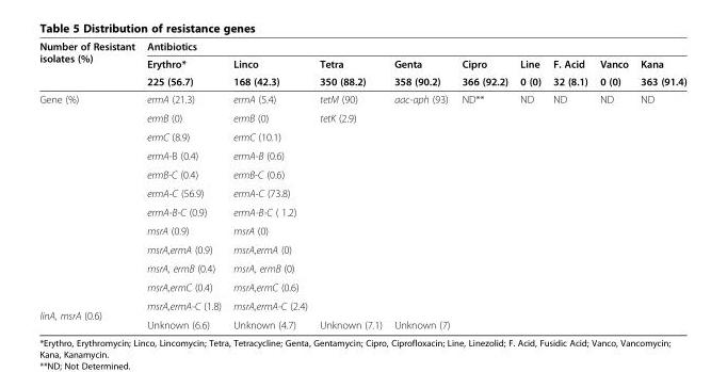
<table><thead><tr><td rowspan="3">Number of Resistant isolates (%)</td><td colspan="9">Antibiotics</td></tr><tr><td rowspan="2">Erythro* 225 (56.7)</td><td rowspan="2">Linco 168 (42.3)</td><td rowspan="2">Tetra 350 (88.2)</td><td rowspan="2">Genta 358 (90.2)</td><td rowspan="2">Cipro 366 (92.2)</td><td rowspan="2">Line 0 (0)</td><td rowspan="2">F. Acid 32 (8.1)</td><td rowspan="2">Vanco 0 (0)</td><td rowspan="2">Kana 363 (91.4)</td></tr><tr></tr></thead><tbody><tr><td rowspan="11">Gene (%)</td><td>ermA (21.3)</td><td>ermA (5.4)</td><td>tetM (90)</td><td>aac-aph (93)</td><td>ND**</td><td>ND</td><td>ND</td><td>ND</td><td>ND</td></tr><tr><td>ermB (0)</td><td>ermB (0)</td><td>tetK (2.9)</td><td></td><td></td><td></td><td></td><td></td><td></td></tr><tr><td>ermC (8.9)</td><td>ermC (10.1)</td><td></td><td></td><td></td><td></td><td></td><td></td><td></td></tr><tr><td>ermA-B (0.4)</td><td>ermA-B (0.6)</td><td></td><td></td><td></td><td></td><td></td><td></td><td></td></tr><tr><td>ermB-C (0.4)</td><td>ermB-C (0.6)</td><td></td><td></td><td></td><td></td><td></td><td></td><td></td></tr><tr><td>ermA-C (56.9)</td><td>ermA-C (73.8)</td><td></td><td></td><td></td><td></td><td></td><td></td><td></td></tr><tr><td>ermA-B-C (0.9)</td><td>ermA-B-C ( 1.2)</td><td></td><td></td><td></td><td></td><td></td><td></td><td></td></tr><tr><td>msrA (0.9)</td><td>msrA (0)</td><td></td><td></td><td></td><td></td><td></td><td></td><td></td></tr><tr><td>msrA,ermA (0.9)</td><td>msrA,ermA (0)</td><td></td><td></td><td></td><td></td><td></td><td></td><td></td></tr><tr><td>msrA, ermB (0.4)</td><td>msrA, ermB (0)</td><td></td><td></td><td></td><td></td><td></td><td></td><td></td></tr><tr><td>msrA,ermC (0.4)</td><td>msrA,ermC (0.6)</td><td></td><td></td><td></td><td></td><td></td><td></td><td></td></tr><tr><td rowspan="2">linA, msrA (0.6)</td><td>msrA,ermA-C (1.8)</td><td>msrA,ermA-C (2.4)</td><td></td><td></td><td></td><td></td><td></td><td></td><td></td></tr><tr><td>Unknown (6.6)</td><td>Unknown (4.7)</td><td>Unknown (7.1)</td><td>Unknown (7)</td><td></td><td></td><td></td><td></td><td></td></tr></tbody></table>